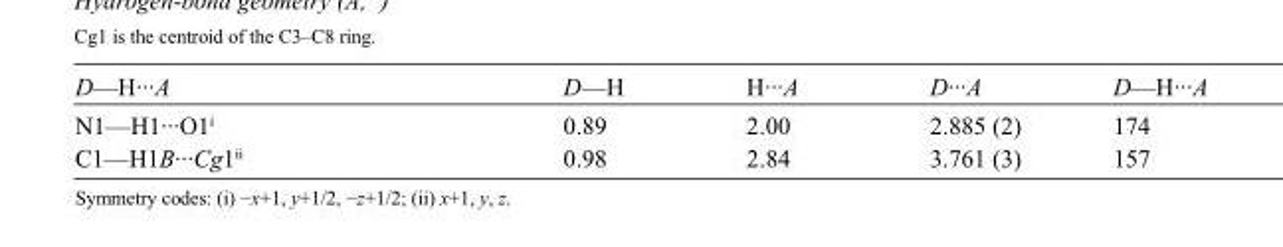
<table><tbody><tr><td>D—H···A</td><td>D—H</td><td>H···A</td><td>D···A</td><td>D—H···A</td></tr><tr><td>N1—H1···O1<sup>i</sup></td><td>0.89</td><td>2.00</td><td>2.885 (2)</td><td>174</td></tr><tr><td>C1—H1B···Cg1<sup>ii</sup></td><td>0.98</td><td>2.84</td><td>3.761 (3)</td><td>157</td></tr></tbody></table>